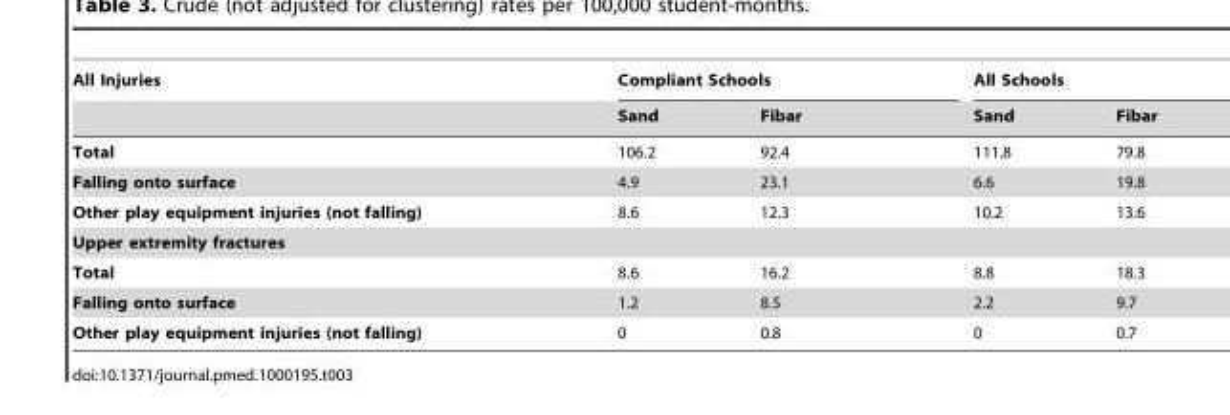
<table><thead><tr><td rowspan="2">All Injuries</td><td colspan="2">Compliant Schools</td><td colspan="2">All Schools</td></tr><tr><td>Sand</td><td>Fibar</td><td>Sand</td><td>Fibar</td></tr></thead><tbody><tr><td>Total</td><td>106.2</td><td>92.4</td><td>111.8</td><td>79.8</td></tr><tr><td>Falling onto surface</td><td>4.9</td><td>23.1</td><td>6.6</td><td>19.8</td></tr><tr><td>Other play equipment injuries (not falling)</td><td>8.6</td><td>12.3</td><td>10.2</td><td>13.6</td></tr><tr><td colspan="5">Upper extremity fractures</td></tr><tr><td>Total</td><td>8.6</td><td>16.2</td><td>8.8</td><td>18.3</td></tr><tr><td>Falling onto surface</td><td>1.2</td><td>8.5</td><td>2.2</td><td>9.7</td></tr><tr><td>Other play equipment injuries (not falling)</td><td>0</td><td>0.8</td><td>0</td><td>0.7</td></tr></tbody></table>